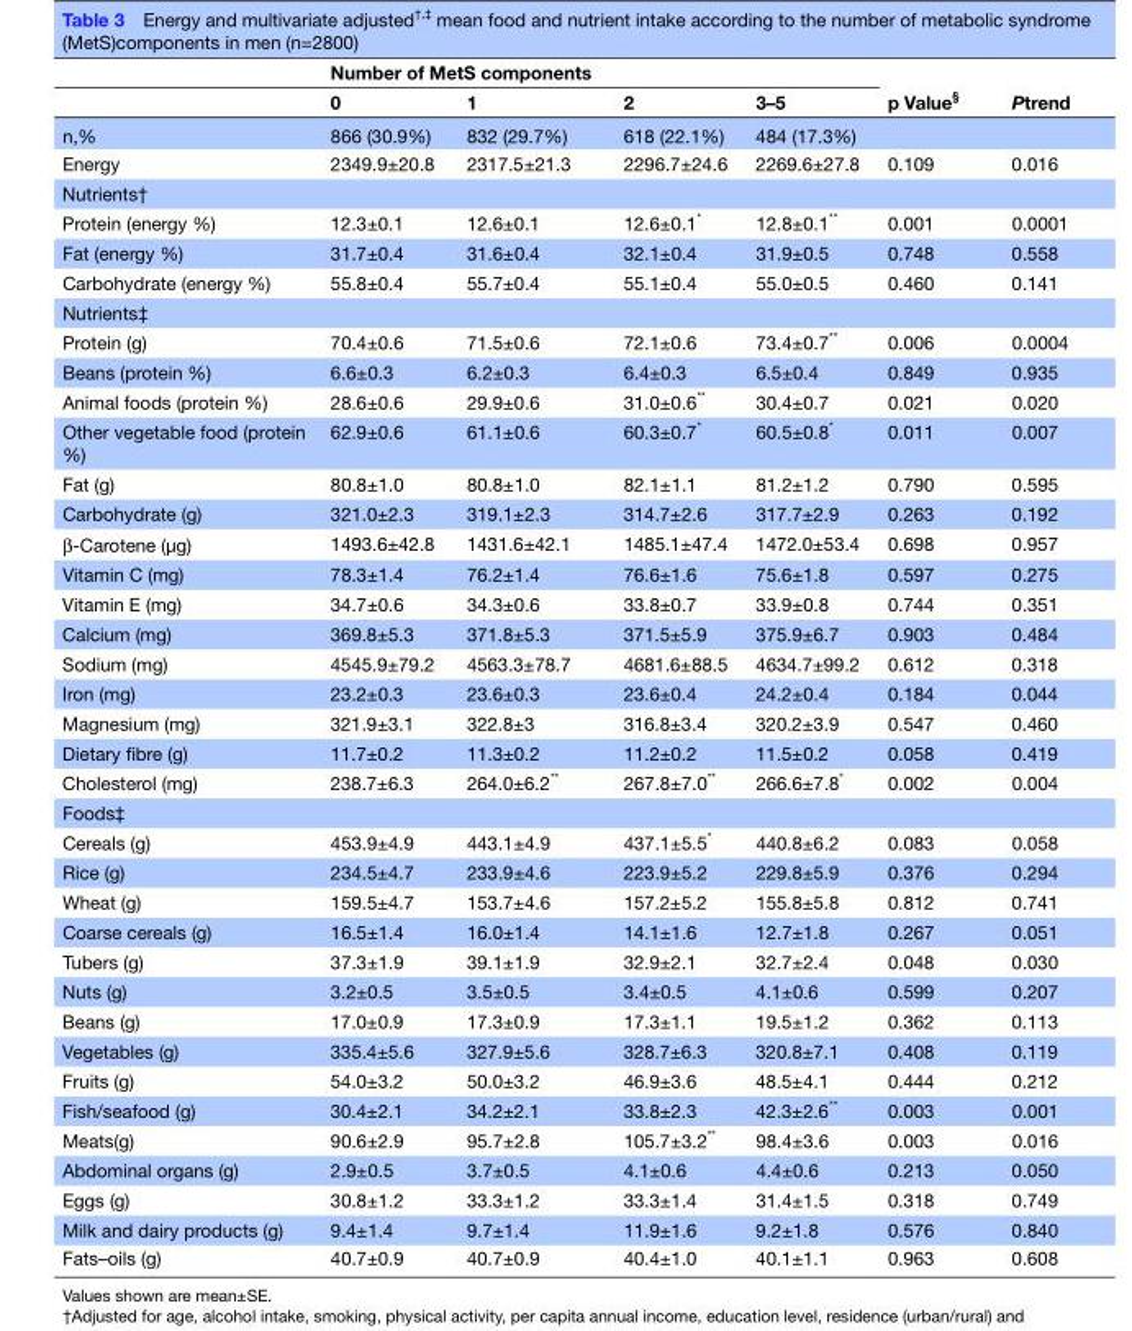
<table><thead><tr><td rowspan="2"></td><td colspan="4">Number of MetS components</td><td rowspan="2">p Value<sup>§</sup></td><td rowspan="2">Ptrend</td></tr><tr><td>0</td><td>1</td><td>2</td><td>3–5</td></tr></thead><tbody><tr><td>n,%</td><td>866 (30.9%)</td><td>832 (29.7%)</td><td>618 (22.1%)</td><td>484 (17.3%)</td><td></td><td></td></tr><tr><td>Energy</td><td>2349.9±20.8</td><td>2317.5±21.3</td><td>2296.7±24.6</td><td>2269.6±27.8</td><td>0.109</td><td>0.016</td></tr><tr><td colspan="7">Nutrients†</td></tr><tr><td>Protein (energy %)</td><td>12.3±0.1</td><td>12.6±0.1</td><td>12.6±0.1*</td><td>12.8±0.1**</td><td>0.001</td><td>0.0001</td></tr><tr><td>Fat (energy %)</td><td>31.7±0.4</td><td>31.6±0.4</td><td>32.1±0.4</td><td>31.9±0.5</td><td>0.748</td><td>0.558</td></tr><tr><td>Carbohydrate (energy %)</td><td>55.8±0.4</td><td>55.7±0.4</td><td>55.1±0.4</td><td>55.0±0.5</td><td>0.460</td><td>0.141</td></tr><tr><td colspan="7">Nutrients‡</td></tr><tr><td>Protein (g)</td><td>70.4±0.6</td><td>71.5±0.6</td><td>72.1±0.6</td><td>73.4±0.7**</td><td>0.006</td><td>0.0004</td></tr><tr><td>Beans (protein %)</td><td>6.6±0.3</td><td>6.2±0.3</td><td>6.4±0.3</td><td>6.5±0.4</td><td>0.849</td><td>0.935</td></tr><tr><td>Animal foods (protein %)</td><td>28.6±0.6</td><td>29.9±0.6</td><td>31.0±0.6**</td><td>30.4±0.7</td><td>0.021</td><td>0.020</td></tr><tr><td>Other vegetable food (protein %)</td><td>62.9±0.6</td><td>61.1±0.6</td><td>60.3±0.7*</td><td>60.5±0.8*</td><td>0.011</td><td>0.007</td></tr><tr><td>Fat (g)</td><td>80.8±1.0</td><td>80.8±1.0</td><td>82.1±1.1</td><td>81.2±1.2</td><td>0.790</td><td>0.595</td></tr><tr><td>Carbohydrate (g)</td><td>321.0±2.3</td><td>319.1±2.3</td><td>314.7±2.6</td><td>317.7±2.9</td><td>0.263</td><td>0.192</td></tr><tr><td>β-Carotene (μg)</td><td>1493.6±42.8</td><td>1431.6±42.1</td><td>1485.1±47.4</td><td>1472.0±53.4</td><td>0.698</td><td>0.957</td></tr><tr><td>Vitamin C (mg)</td><td>78.3±1.4</td><td>76.2±1.4</td><td>76.6±1.6</td><td>75.6±1.8</td><td>0.597</td><td>0.275</td></tr><tr><td>Vitamin E (mg)</td><td>34.7±0.6</td><td>34.3±0.6</td><td>33.8±0.7</td><td>33.9±0.8</td><td>0.744</td><td>0.351</td></tr><tr><td>Calcium (mg)</td><td>369.8±5.3</td><td>371.8±5.3</td><td>371.5±5.9</td><td>375.9±6.7</td><td>0.903</td><td>0.484</td></tr><tr><td>Sodium (mg)</td><td>4545.9±79.2</td><td>4563.3±78.7</td><td>4681.6±88.5</td><td>4634.7±99.2</td><td>0.612</td><td>0.318</td></tr><tr><td>Iron (mg)</td><td>23.2±0.3</td><td>23.6±0.3</td><td>23.6±0.4</td><td>24.2±0.4</td><td>0.184</td><td>0.044</td></tr><tr><td>Magnesium (mg)</td><td>321.9±3.1</td><td>322.8±3</td><td>316.8±3.4</td><td>320.2±3.9</td><td>0.547</td><td>0.460</td></tr><tr><td>Dietary fibre (g)</td><td>11.7±0.2</td><td>11.3±0.2</td><td>11.2±0.2</td><td>11.5±0.2</td><td>0.058</td><td>0.419</td></tr><tr><td>Cholesterol (mg)</td><td>238.7±6.3</td><td>264.0±6.2**</td><td>267.8±7.0**</td><td>266.6±7.8*</td><td>0.002</td><td>0.004</td></tr><tr><td colspan="7">Foods‡</td></tr><tr><td>Cereals (g)</td><td>453.9±4.9</td><td>443.1±4.9</td><td>437.1±5.5*</td><td>440.8±6.2</td><td>0.083</td><td>0.058</td></tr><tr><td>Rice (g)</td><td>234.5±4.7</td><td>233.9±4.6</td><td>223.9±5.2</td><td>229.8±5.9</td><td>0.376</td><td>0.294</td></tr><tr><td>Wheat (g)</td><td>159.5±4.7</td><td>153.7±4.6</td><td>157.2±5.2</td><td>155.8±5.8</td><td>0.812</td><td>0.741</td></tr><tr><td>Coarse cereals (g)</td><td>16.5±1.4</td><td>16.0±1.4</td><td>14.1±1.6</td><td>12.7±1.8</td><td>0.267</td><td>0.051</td></tr><tr><td>Tubers (g)</td><td>37.3±1.9</td><td>39.1±1.9</td><td>32.9±2.1</td><td>32.7±2.4</td><td>0.048</td><td>0.030</td></tr><tr><td>Nuts (g)</td><td>3.2±0.5</td><td>3.5±0.5</td><td>3.4±0.5</td><td>4.1±0.6</td><td>0.599</td><td>0.207</td></tr><tr><td>Beans (g)</td><td>17.0±0.9</td><td>17.3±0.9</td><td>17.3±1.1</td><td>19.5±1.2</td><td>0.362</td><td>0.113</td></tr><tr><td>Vegetables (g)</td><td>335.4±5.6</td><td>327.9±5.6</td><td>328.7±6.3</td><td>320.8±7.1</td><td>0.408</td><td>0.119</td></tr><tr><td>Fruits (g)</td><td>54.0±3.2</td><td>50.0±3.2</td><td>46.9±3.6</td><td>48.5±4.1</td><td>0.444</td><td>0.212</td></tr><tr><td>Fish/seafood (g)</td><td>30.4±2.1</td><td>34.2±2.1</td><td>33.8±2.3</td><td>42.3±2.6**</td><td>0.003</td><td>0.001</td></tr><tr><td>Meats(g)</td><td>90.6±2.9</td><td>95.7±2.8</td><td>105.7±3.2**</td><td>98.4±3.6</td><td>0.003</td><td>0.016</td></tr><tr><td>Abdominal organs (g)</td><td>2.9±0.5</td><td>3.7±0.5</td><td>4.1±0.6</td><td>4.4±0.6</td><td>0.213</td><td>0.050</td></tr><tr><td>Eggs (g)</td><td>30.8±1.2</td><td>33.3±1.2</td><td>33.3±1.4</td><td>31.4±1.5</td><td>0.318</td><td>0.749</td></tr><tr><td>Milk and dairy products (g)</td><td>9.4±1.4</td><td>9.7±1.4</td><td>11.9±1.6</td><td>9.2±1.8</td><td>0.576</td><td>0.840</td></tr><tr><td>Fats–oils (g)</td><td>40.7±0.9</td><td>40.7±0.9</td><td>40.4±1.0</td><td>40.1±1.1</td><td>0.963</td><td>0.608</td></tr></tbody></table>